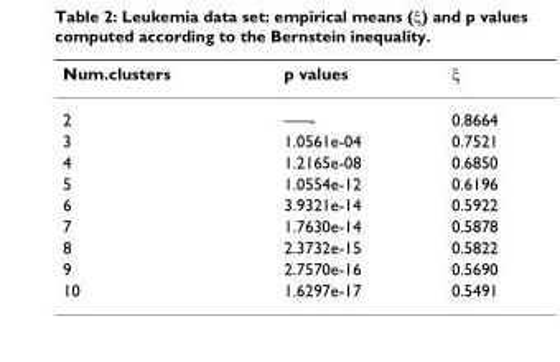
<table><thead><tr><td>Num.clusters</td><td>p values</td><td>ξ</td></tr></thead><tbody><tr><td>2</td><td>–––-</td><td>0.8664</td></tr><tr><td>3</td><td>1.0561e-04</td><td>0.7521</td></tr><tr><td>4</td><td>1.2165e-08</td><td>0.6850</td></tr><tr><td>5</td><td>1.0554e-12</td><td>0.6196</td></tr><tr><td>6</td><td>3.9321e-14</td><td>0.5922</td></tr><tr><td>7</td><td>1.7630e-14</td><td>0.5878</td></tr><tr><td>8</td><td>2.3732e-15</td><td>0.5822</td></tr><tr><td>9</td><td>2.7570e-16</td><td>0.5690</td></tr><tr><td>10</td><td>1.6297e-17</td><td>0.5491</td></tr></tbody></table>